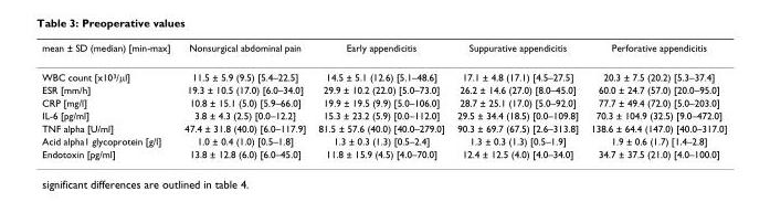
<table><thead><tr><td>mean ± SD (median) [min-max]</td><td>Nonsurgical abdominal pain</td><td>Early appendicitis</td><td>Suppurative appendicitis</td><td>Perforative appendicitis</td></tr></thead><tbody><tr><td>WBC count [x103/µl]</td><td>11.5 ± 5.9 (9.5) [5.4–22.5]</td><td>14.5 ± 5.1 (12.6) [5.1–48.6]</td><td>17.1 ± 4.8 (17.1) [4.5–27.5]</td><td>20.3 ± 7.5 (20.2) [5.3–37.4]</td></tr><tr><td>ESR [mm/h]</td><td>19.3 ± 10.5 (17.0) [6.0–34.0]</td><td>29.9 ± 10.2 (22.0) [5.0–73.0]</td><td>26.2 ± 14.6 (27.0) [8.0–45.0]</td><td>60.0 ± 24.7 (57.0) [20.0–95.0]</td></tr><tr><td>CRP [mg/l]</td><td>10.8 ± 15.1 (5.0) [5.9–66.0]</td><td>19.9 ± 19.5 (9.9) [5.0–106.0]</td><td>28.7 ± 25.1 (17.0) [5.0–92.0]</td><td>77.7 ± 49.4 (72.0) [5.0–203.0]</td></tr><tr><td>IL-6 [pg/ml]</td><td>3.8 ± 4.3 (2.5) [0.0–12.2]</td><td>15.3 ± 23.2 (5.9) [0.0–112.0]</td><td>29.5 ± 34.4 (18.5) [0.0–109.8]</td><td>70.3 ± 104.9 (32.5) [9.0–472.0]</td></tr><tr><td>TNF alpha [U/ml]</td><td>47.4 ± 31.8 (40.0) [6.0–117.9]</td><td>81.5 ± 57.6 (40.0) [40.0–279.0]</td><td>90.3 ± 69.7 (67.5) [2.6–313.8]</td><td>138.6 ± 64.4 (147.0) [40.0–317.0]</td></tr><tr><td>Acid alpha1 glycoprotein [g/l]</td><td>1.0 ± 0.4 (1.0) [0.5–1.8]</td><td>1.3 ± 0.3 (1.3) [0.5–2.4]</td><td>1.3 ± 0.3 (1.3) [0.5–1.9]</td><td>1.9 ± 0.6 (1.7) [1.4–2.8]</td></tr><tr><td>Endotoxin [pg/ml]</td><td>13.8 ± 12.8 (6.0) [6.0–45.0]</td><td>11.8 ± 15.9 (4.5) [4.0–70.0]</td><td>12.4 ± 12.5 (4.0) [4.0–34.0]</td><td>34.7 ± 37.5 (21.0) [4.0–100.0]</td></tr></tbody></table>